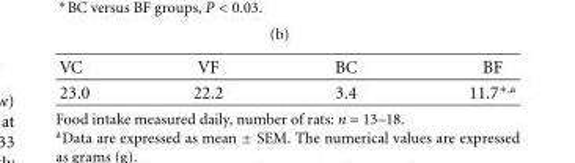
<table><thead><tr><td>VC</td><td>VF</td><td>BC</td><td>BF</td></tr></thead><tbody><tr><td>23.0</td><td>22.2</td><td>3.4</td><td>11.7<sup>∗,a</sup></td></tr></tbody></table>